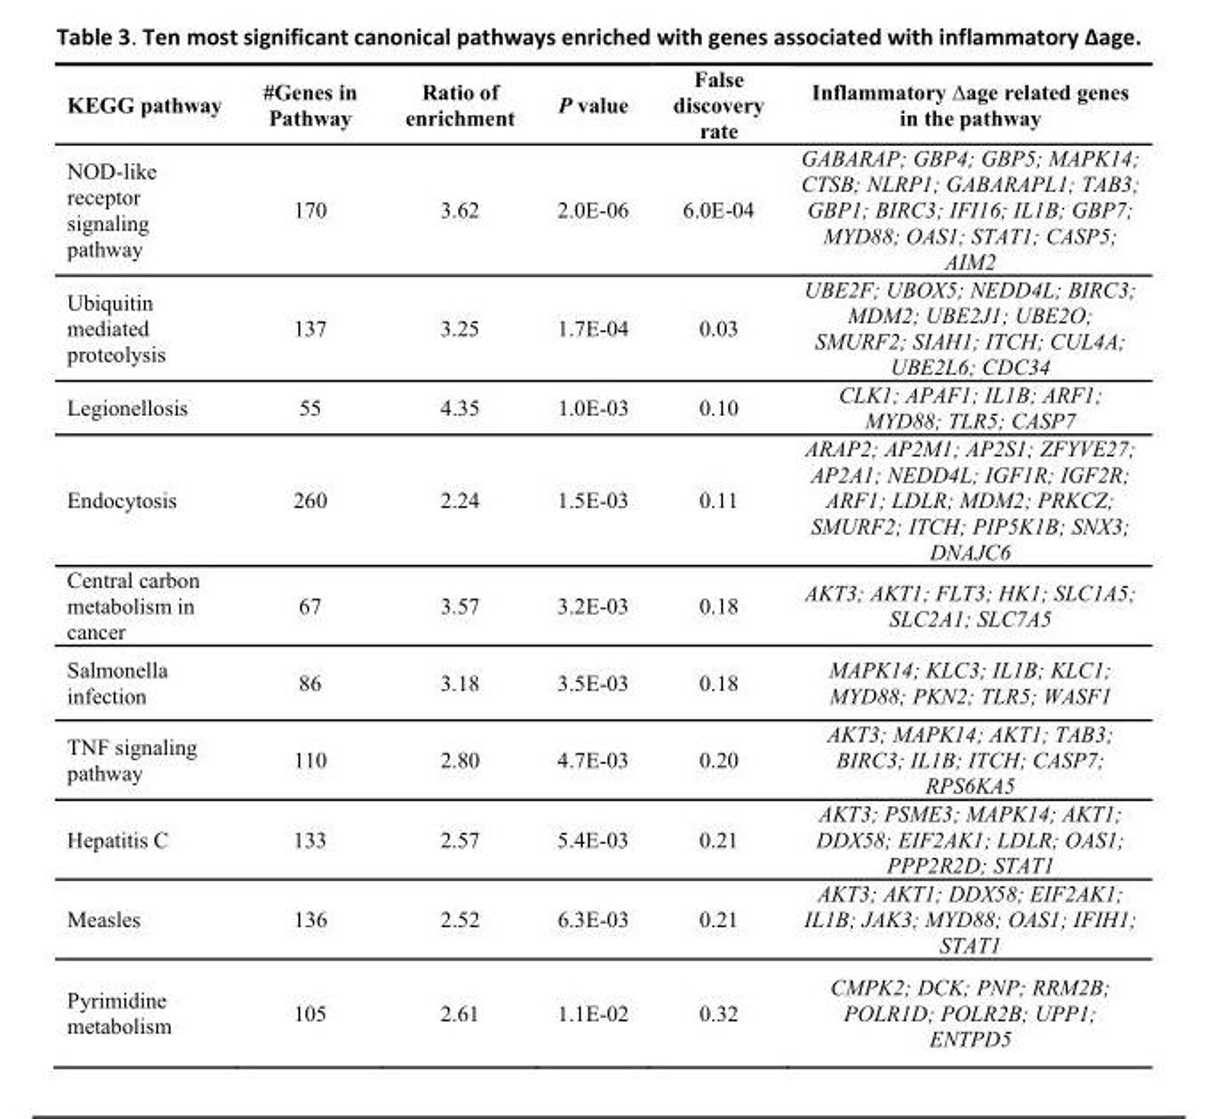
<table><thead><tr><td>KEGG pathway</td><td>#Genes in Pathway</td><td>Ratio of enrichment</td><td>P value</td><td>False discovery rate</td><td>Inflammatory ∆age related genes in the pathway</td></tr></thead><tbody><tr><td>NOD-like receptor signaling pathway</td><td>170</td><td>3.62</td><td>2.0E-06</td><td>6.0E-04</td><td>GABARAP; GBP4; GBP5; MAPK14; CTSB; NLRP1; GABARAPL1; TAB3; GBP1; BIRC3; IFI16; IL1B; GBP7; MYD88; OAS1; STAT1; CASP5; AIM2</td></tr><tr><td>Ubiquitin mediated proteolysis</td><td>137</td><td>3.25</td><td>1.7E-04</td><td>0.03</td><td>UBE2F; UBOX5; NEDD4L; BIRC3; MDM2; UBE2J1; UBE2O; SMURF2; SIAH1; ITCH; CUL4A; UBE2L6; CDC34</td></tr><tr><td>Legionellosis</td><td>55</td><td>4.35</td><td>1.0E-03</td><td>0.10</td><td>CLK1; APAF1; IL1B; ARF1; MYD88; TLR5; CASP7</td></tr><tr><td>Endocytosis</td><td>260</td><td>2.24</td><td>1.5E-03</td><td>0.11</td><td>ARAP2; AP2M1; AP2S1; ZFYVE27; AP2A1; NEDD4L; IGF1R; IGF2R; ARF1; LDLR; MDM2; PRKCZ; SMURF2; ITCH; PIP5K1B; SNX3; DNAJC6</td></tr><tr><td>Central carbon metabolism in cancer</td><td>67</td><td>3.57</td><td>3.2E-03</td><td>0.18</td><td>AKT3; AKT1; FLT3; HK1; SLC1A5; SLC2A1; SLC7A5</td></tr><tr><td>Salmonella infection</td><td>86</td><td>3.18</td><td>3.5E-03</td><td>0.18</td><td>MAPK14; KLC3; IL1B; KLC1; MYD88; PKN2; TLR5; WASF1</td></tr><tr><td>TNF signaling pathway</td><td>110</td><td>2.80</td><td>4.7E-03</td><td>0.20</td><td>AKT3; MAPK14; AKT1; TAB3; BIRC3; IL1B; ITCH; CASP7; RPS6KA5</td></tr><tr><td>Hepatitis C</td><td>133</td><td>2.57</td><td>5.4E-03</td><td>0.21</td><td>AKT3; PSME3; MAPK14; AKT1; DDX58; EIF2AK1; LDLR; OAS1; PPP2R2D; STAT1</td></tr><tr><td>Measles</td><td>136</td><td>2.52</td><td>6.3E-03</td><td>0.21</td><td>AKT3; AKT1; DDX58; EIF2AK1; IL1B; JAK3; MYD88; OAS1; IFIH1; STAT1</td></tr><tr><td>Pyrimidine metabolism</td><td>105</td><td>2.61</td><td>1.1E-02</td><td>0.32</td><td>CMPK2; DCK; PNP; RRM2B; POLR1D; POLR2B; UPP1; ENTPD5</td></tr></tbody></table>